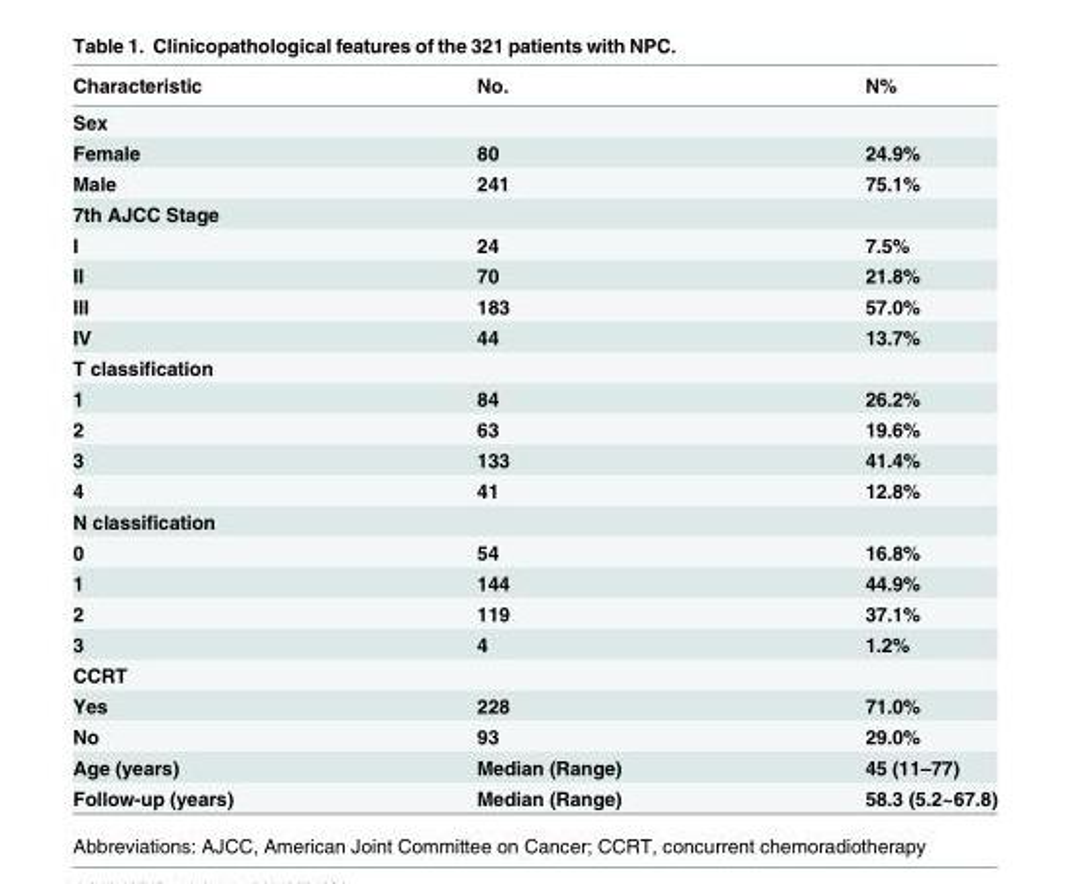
<table><thead><tr><td>Characteristic</td><td>No.</td><td>N%</td></tr></thead><tbody><tr><td colspan="3">Sex</td></tr><tr><td>Female</td><td>80</td><td>24.9%</td></tr><tr><td>Male</td><td>241</td><td>75.1%</td></tr><tr><td colspan="3">7th AJCC Stage</td></tr><tr><td>I</td><td>24</td><td>7.5%</td></tr><tr><td>II</td><td>70</td><td>21.8%</td></tr><tr><td>III</td><td>183</td><td>57.0%</td></tr><tr><td>IV</td><td>44</td><td>13.7%</td></tr><tr><td colspan="3">T classification</td></tr><tr><td>1</td><td>84</td><td>26.2%</td></tr><tr><td>2</td><td>63</td><td>19.6%</td></tr><tr><td>3</td><td>133</td><td>41.4%</td></tr><tr><td>4</td><td>41</td><td>12.8%</td></tr><tr><td colspan="3">N classification</td></tr><tr><td>0</td><td>54</td><td>16.8%</td></tr><tr><td>1</td><td>144</td><td>44.9%</td></tr><tr><td>2</td><td>119</td><td>37.1%</td></tr><tr><td>3</td><td>4</td><td>1.2%</td></tr><tr><td colspan="3">CCRT</td></tr><tr><td>Yes</td><td>228</td><td>71.0%</td></tr><tr><td>No</td><td>93</td><td>29.0%</td></tr><tr><td>Age (years)</td><td>Median (Range)</td><td>45 (11–77)</td></tr><tr><td>Follow-up (years)</td><td>Median (Range)</td><td>58.3 (5.2~67.8)</td></tr></tbody></table>